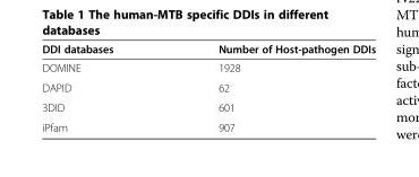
<table><thead><tr><td>DDI databases</td><td>Number of Host-pathogen DDIs</td></tr></thead><tbody><tr><td>DOMINE</td><td>1928</td></tr><tr><td>DAPID</td><td>62</td></tr><tr><td>3DID</td><td>601</td></tr><tr><td>iPfam</td><td>907</td></tr></tbody></table>